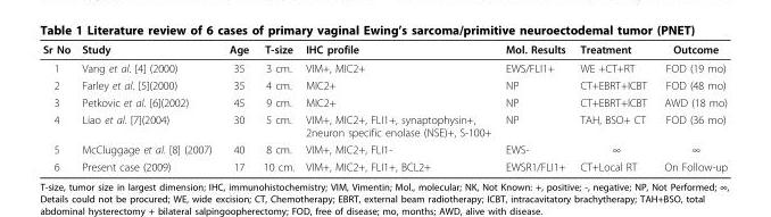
<table><thead><tr><td>Sr No</td><td>Study</td><td>Age</td><td>T-size</td><td>IHC profile</td><td>Mol. Results</td><td>Treatment</td><td>Outcome</td></tr></thead><tbody><tr><td>1</td><td>Vang et al. [4] (2000)</td><td>35</td><td>3 cm.</td><td>VIM+, MIC2+</td><td>EWS/FLI1+</td><td>WE +CT+RT</td><td>FOD (19 mo)</td></tr><tr><td>2</td><td>Farley et al. [5](2000)</td><td>35</td><td>4 cm.</td><td>MIC2+</td><td>NP</td><td>CT+EBRT+ICBT</td><td>FOD (48 mo)</td></tr><tr><td>3</td><td>Petkovic et al. [6](2002)</td><td>45</td><td>9 cm.</td><td>MIC2+</td><td>NP</td><td>CT+EBRT+ICBT</td><td>AWD (18 mo)</td></tr><tr><td>4</td><td>Liao et al. [7](2004)</td><td>30</td><td>5 cm.</td><td>VIM+, MIC2+, FLI1+, synaptophysin+, 2neuron specific enolase (NSE)+, S-100+</td><td>NP</td><td>TAH, BSO+ CT</td><td>FOD (36 mo)</td></tr><tr><td>5</td><td>McCluggage et al. [8] (2007)</td><td>40</td><td>8 cm.</td><td>VIM+, MIC2+, FLI1-</td><td>EWS-</td><td>∞</td><td>∞</td></tr><tr><td>6</td><td>Present case (2009)</td><td>17</td><td>10 cm.</td><td>VIM+, MIC2+, FLI1+, BCL2+</td><td>EWSR1/FLI1+</td><td>CT+Local RT</td><td>On Follow-up</td></tr></tbody></table>